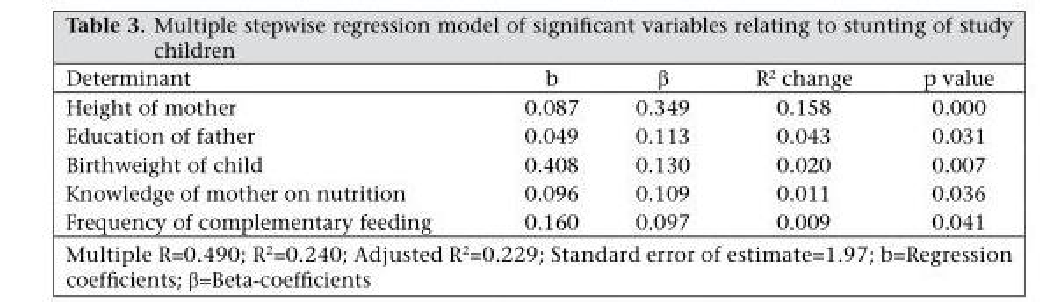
<table><thead><tr><td>Determinant</td><td>b</td><td>β</td><td>R<sup>2</sup> change</td><td>p value</td></tr></thead><tbody><tr><td>Height of mother</td><td>0.087</td><td>0.349</td><td>0.158</td><td>0.000</td></tr><tr><td>Education of father</td><td>0.049</td><td>0.113</td><td>0.043</td><td>0.031</td></tr><tr><td>Birthweight of child</td><td>0.408</td><td>0.130</td><td>0.020</td><td>0.007</td></tr><tr><td>Knowledge of mother on nutrition</td><td>0.096</td><td>0.109</td><td>0.011</td><td>0.036</td></tr><tr><td>Frequency of complementary feeding</td><td>0.160</td><td>0.097</td><td>0.009</td><td>0.041</td></tr></tbody></table>